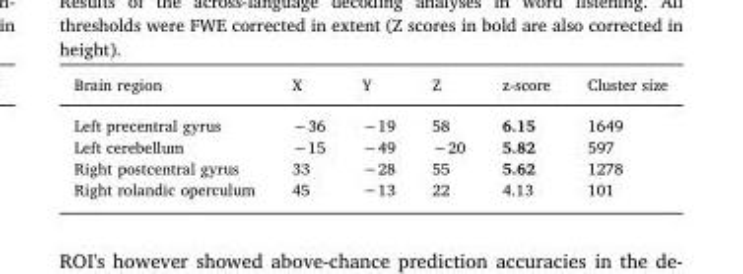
<table><thead><tr><td>Brain region</td><td>X</td><td>Y</td><td>Z</td><td>z-score</td><td>Cluster size</td></tr></thead><tbody><tr><td>Left precentral gyrus</td><td>−36</td><td>−19</td><td>58</td><td>6.15</td><td>1649</td></tr><tr><td>Left cerebellum</td><td>−15</td><td>−49</td><td>−20</td><td>5.82</td><td>597</td></tr><tr><td>Right postcentral gyrus</td><td>33</td><td>−28</td><td>55</td><td>5.62</td><td>1278</td></tr><tr><td>Right rolandic operculum</td><td>45</td><td>−13</td><td>22</td><td>4.13</td><td>101</td></tr></tbody></table>